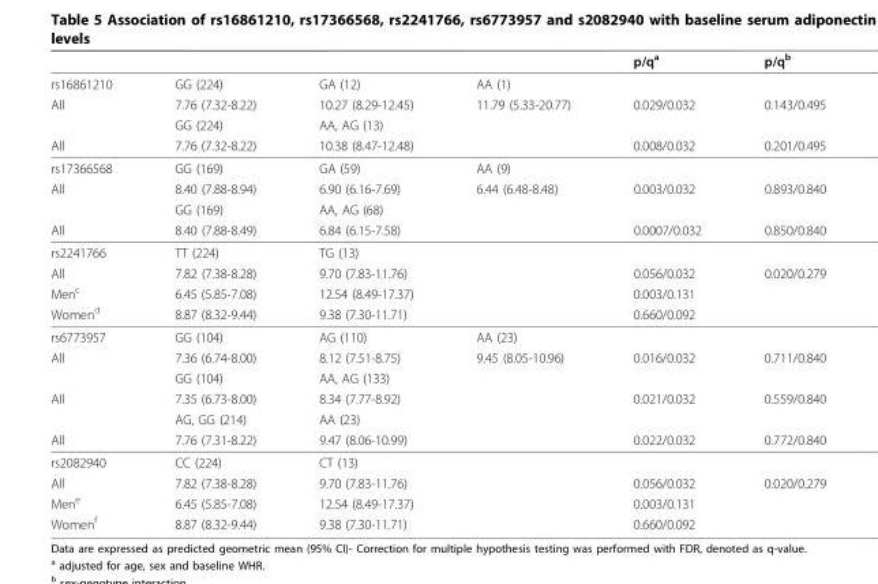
<table><thead><tr><td></td><td></td><td></td><td></td><td>p/q<sup>a</sup></td><td>p/q<sup>b</sup></td></tr></thead><tbody><tr><td>rs16861210</td><td>GG (224)</td><td>GA (12)</td><td>AA (1)</td><td></td><td></td></tr><tr><td rowspan="2">All</td><td>7.76 (7.32-8.22)</td><td>10.27 (8.29-12.45)</td><td>11.79 (5.33-20.77)</td><td>0.029/0.032</td><td>0.143/0.495</td></tr><tr><td>GG (224)</td><td>AA, AG (13)</td><td></td><td></td><td></td></tr><tr><td>All</td><td>7.76 (7.32-8.22)</td><td>10.38 (8.47-12.48)</td><td></td><td>0.008/0.032</td><td>0.201/0.495</td></tr><tr><td>rs17366568</td><td>GG (169)</td><td>GA (59)</td><td>AA (9)</td><td></td><td></td></tr><tr><td rowspan="2">All</td><td>8.40 (7.88-8.94)</td><td>6.90 (6.16-7.69)</td><td>6.44 (6.48-8.48)</td><td>0.003/0.032</td><td>0.893/0.840</td></tr><tr><td>GG (169)</td><td>AA, AG (68)</td><td></td><td></td><td></td></tr><tr><td>All</td><td>8.40 (7.88-8.49)</td><td>6.84 (6.15-7.58)</td><td></td><td>0.0007/0.032</td><td>0.850/0.840</td></tr><tr><td>rs2241766</td><td>TT (224)</td><td>TG (13)</td><td></td><td></td><td></td></tr><tr><td>All</td><td>7.82 (7.38-8.28)</td><td>9.70 (7.83-11.76)</td><td></td><td>0.056/0.032</td><td>0.020/0.279</td></tr><tr><td>Men<sup>c</sup></td><td>6.45 (5.85-7.08)</td><td>12.54 (8.49-17.37)</td><td></td><td>0.003/0.131</td><td></td></tr><tr><td>Women<sup>d</sup></td><td>8.87 (8.32-9.44)</td><td>9.38 (7.30-11.71)</td><td></td><td>0.660/0.092</td><td></td></tr><tr><td>rs6773957</td><td>GG (104)</td><td>AG (110)</td><td>AA (23)</td><td></td><td></td></tr><tr><td rowspan="2">All</td><td>7.36 (6.74-8.00)</td><td>8.12 (7.51-8.75)</td><td>9.45 (8.05-10.96)</td><td>0.016/0.032</td><td>0.711/0.840</td></tr><tr><td>GG (104)</td><td>AA, AG (133)</td><td></td><td></td><td></td></tr><tr><td rowspan="2">All</td><td>7.35 (6.73-8.00)</td><td>8.34 (7.77-8.92)</td><td></td><td>0.021/0.032</td><td>0.559/0.840</td></tr><tr><td>AG, GG (214)</td><td>AA (23)</td><td></td><td></td><td></td></tr><tr><td>All</td><td>7.76 (7.31-8.22)</td><td>9.47 (8.06-10.99)</td><td></td><td>0.022/0.032</td><td>0.772/0.840</td></tr><tr><td>rs2082940</td><td>CC (224)</td><td>CT (13)</td><td></td><td></td><td></td></tr><tr><td>All</td><td>7.82 (7.38-8.28)</td><td>9.70 (7.83-11.76)</td><td></td><td>0.056/0.032</td><td>0.020/0.279</td></tr><tr><td>Men<sup>e</sup></td><td>6.45 (5.85-7.08)</td><td>12.54 (8.49-17.37)</td><td></td><td>0.003/0.131</td><td></td></tr><tr><td>Women<sup>f</sup></td><td>8.87 (8.32-9.44)</td><td>9.38 (7.30-11.71)</td><td></td><td>0.660/0.092</td><td></td></tr></tbody></table>